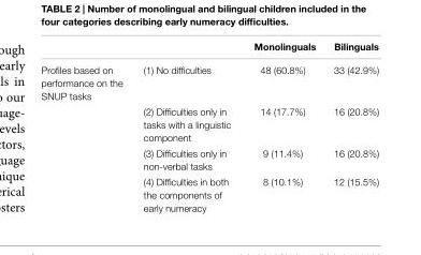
<table><thead><tr><td></td><td></td><td>Monolinguals</td><td>Bilinguals</td></tr></thead><tbody><tr><td rowspan="4">Profiles based on performance on the SNUP tasks</td><td>(1) No difficulties</td><td>48 (60.8%)</td><td>33 (42.9%)</td></tr><tr><td>(2) Difficulties only in tasks with a linguistic component</td><td>14 (17.7%)</td><td>16 (20.8%)</td></tr><tr><td>(3) Difficulties only in non-verbal tasks</td><td>9 (11.4%)</td><td>16 (20.8%)</td></tr><tr><td>(4) Difficulties in both the components of early numeracy</td><td>8 (10.1%)</td><td>12 (15.5%)</td></tr></tbody></table>